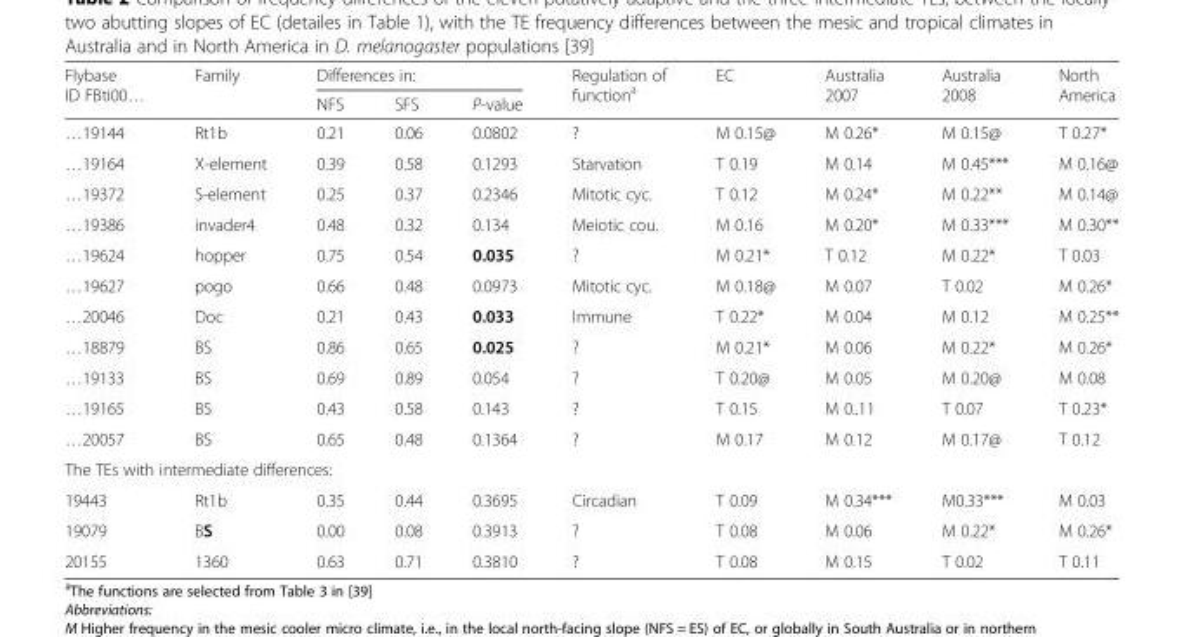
<table><thead><tr><td rowspan="2">Flybase ID FBti00…</td><td rowspan="2">Family</td><td colspan="3">Differences in:</td><td rowspan="2">Regulation of function<sup>a</sup></td><td rowspan="2">EC</td><td rowspan="2">Australia 2007</td><td rowspan="2">Australia 2008</td><td rowspan="2">North America</td></tr><tr><td>NFS</td><td>SFS</td><td>P-value</td></tr></thead><tbody><tr><td>…19144</td><td>Rt1b</td><td>0.21</td><td>0.06</td><td>0.0802</td><td>?</td><td>M 0.15@</td><td>M 0.26*</td><td>M 0.15@</td><td>T 0.27*</td></tr><tr><td>…19164</td><td>X-element</td><td>0.39</td><td>0.58</td><td>0.1293</td><td>Starvation</td><td>T 0.19</td><td>M 0.14</td><td>M 0.45***</td><td>M 0.16@</td></tr><tr><td>…19372</td><td>S-element</td><td>0.25</td><td>0.37</td><td>0.2346</td><td>Mitotic cyc.</td><td>T 0.12</td><td>M 0.24*</td><td>M 0.22**</td><td>M 0.14@</td></tr><tr><td>…19386</td><td>invader4</td><td>0.48</td><td>0.32</td><td>0.134</td><td>Meiotic cou.</td><td>M 0.16</td><td>M 0.20*</td><td>M 0.33***</td><td>M 0.30**</td></tr><tr><td>…19624</td><td>hopper</td><td>0.75</td><td>0.54</td><td>0.035</td><td>?</td><td>M 0.21*</td><td>T 0.12</td><td>M 0.22*</td><td>T 0.03</td></tr><tr><td>…19627</td><td>pogo</td><td>0.66</td><td>0.48</td><td>0.0973</td><td>Mitotic cyc.</td><td>M 0.18@</td><td>M 0.07</td><td>T 0.02</td><td>M 0.26*</td></tr><tr><td>…20046</td><td>Doc</td><td>0.21</td><td>0.43</td><td>0.033</td><td>Immune</td><td>T 0.22*</td><td>M 0.04</td><td>M 0.12</td><td>M 0.25**</td></tr><tr><td>…18879</td><td>BS</td><td>0.86</td><td>0.65</td><td>0.025</td><td>?</td><td>M 0.21*</td><td>M 0.06</td><td>M 0.22*</td><td>M 0.26*</td></tr><tr><td>…19133</td><td>BS</td><td>0.69</td><td>0.89</td><td>0.054</td><td>?</td><td>T 0.20@</td><td>M 0.05</td><td>M 0.20@</td><td>M 0.08</td></tr><tr><td>…19165</td><td>BS</td><td>0.43</td><td>0.58</td><td>0.143</td><td>?</td><td>T 0.15</td><td>M 0..11</td><td>T 0.07</td><td>T 0.23*</td></tr><tr><td>…20057</td><td>BS</td><td>0.65</td><td>0.48</td><td>0.1364</td><td>?</td><td>M 0.17</td><td>M 0.12</td><td>M 0.17@</td><td>T 0.12</td></tr><tr><td colspan="10">The TEs with intermediate differences:</td></tr><tr><td>19443</td><td>Rt1b</td><td>0.35</td><td>0.44</td><td>0.3695</td><td>Circadian</td><td>T 0.09</td><td>M 0.34***</td><td>M0.33***</td><td>M 0.03</td></tr><tr><td>19079</td><td>BS</td><td>0.00</td><td>0.08</td><td>0.3913</td><td>?</td><td>T 0.08</td><td>M 0.06</td><td>M 0.22*</td><td>M 0.26*</td></tr><tr><td>20155</td><td>1360</td><td>0.63</td><td>0.71</td><td>0.3810</td><td>?</td><td>T 0.08</td><td>M 0.15</td><td>T 0.02</td><td>T 0.11</td></tr></tbody></table>